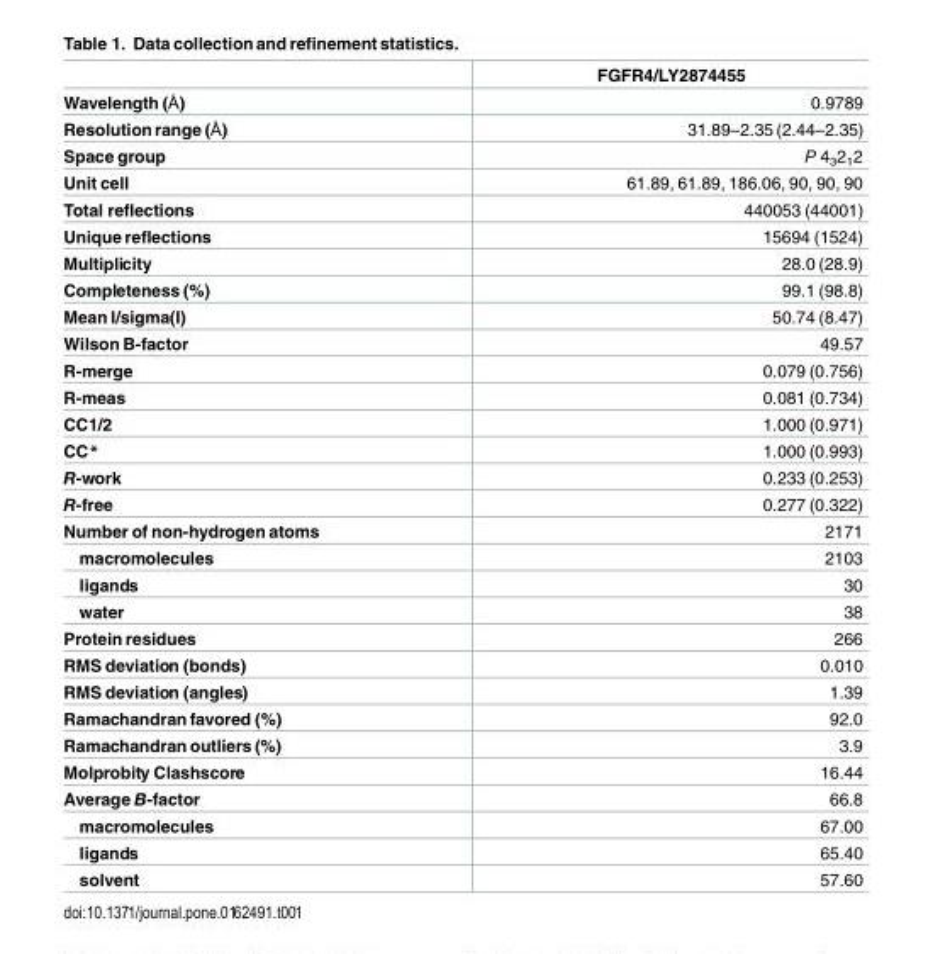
<table><thead><tr><td></td><td>FGFR4/LY2874455</td></tr></thead><tbody><tr><td>Wavelength (Å)</td><td>0.9789</td></tr><tr><td>Resolutionrange (Å)</td><td>31.89–2.35 (2.44–2.35)</td></tr><tr><td>Space group</td><td>P 4<sub>3</sub>2<sub>1</sub>2</td></tr><tr><td>Unit cell</td><td>61.89, 61.89, 186.06, 90, 90, 90</td></tr><tr><td>Total reflections</td><td>440053 (44001)</td></tr><tr><td>Unique reflections</td><td>15694 (1524)</td></tr><tr><td>Multiplicity</td><td>28.0 (28.9)</td></tr><tr><td>Completeness (%)</td><td>99.1 (98.8)</td></tr><tr><td>Mean I/sigma(I)</td><td>50.74 (8.47)</td></tr><tr><td>Wilson B-factor</td><td>49.57</td></tr><tr><td>R-merge</td><td>0.079 (0.756)</td></tr><tr><td>R-meas</td><td>0.081 (0.734)</td></tr><tr><td>CC1/2</td><td>1.000 (0.971)</td></tr><tr><td>CC*</td><td>1.000 (0.993)</td></tr><tr><td>R-work</td><td>0.233 (0.253)</td></tr><tr><td>R-free</td><td>0.277 (0.322)</td></tr><tr><td>Number of non-hydrogen atoms</td><td>2171</td></tr><tr><td>macromolecules</td><td>2103</td></tr><tr><td>ligands</td><td>30</td></tr><tr><td>water</td><td>38</td></tr><tr><td>Protein residues</td><td>266</td></tr><tr><td>RMS deviation (bonds)</td><td>0.010</td></tr><tr><td>RMS deviation (angles)</td><td>1.39</td></tr><tr><td>Ramachandran favored (%)</td><td>92.0</td></tr><tr><td>Ramachandran outliers (%)</td><td>3.9</td></tr><tr><td>Molprobity Clashscore</td><td>16.44</td></tr><tr><td>Average B-factor</td><td>66.8</td></tr><tr><td>macromolecules</td><td>67.00</td></tr><tr><td>ligands</td><td>65.40</td></tr><tr><td>solvent</td><td>57.60</td></tr></tbody></table>